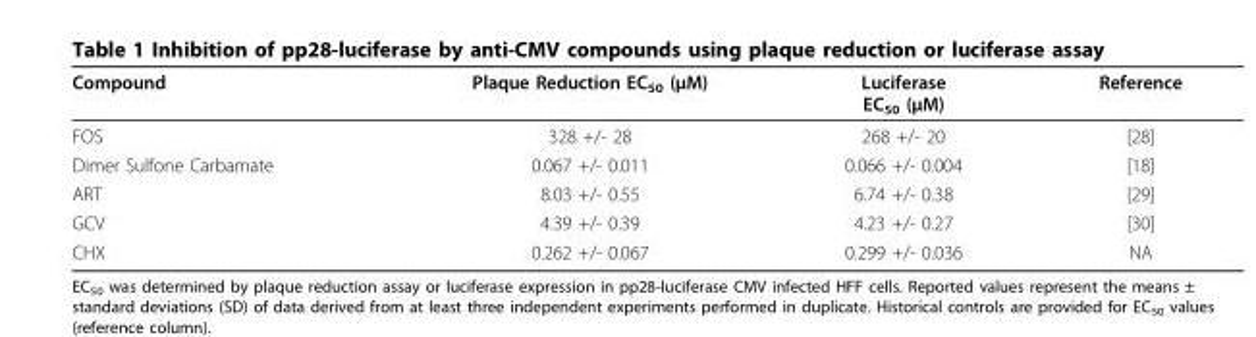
<table><thead><tr><td>Compound</td><td>Plaque Reduction EC<sub>50</sub> (μM)</td><td>Luciferase EC<sub>50</sub> (μM)</td><td>Reference</td></tr></thead><tbody><tr><td>FOS</td><td>328 +/- 28</td><td>268 +/- 20</td><td>[28]</td></tr><tr><td>Dimer Sulfone Carbamate</td><td>0.067 +/- 0.011</td><td>0.066 +/- 0.004</td><td>[18]</td></tr><tr><td>ART</td><td>8.03 +/- 0.55</td><td>6.74 +/- 0.38</td><td>[29]</td></tr><tr><td>GCV</td><td>4.39 +/- 0.39</td><td>4.23 +/- 0.27</td><td>[30]</td></tr><tr><td>CHX</td><td>0.262 +/- 0.067</td><td>0.299 +/- 0.036</td><td>NA</td></tr></tbody></table>